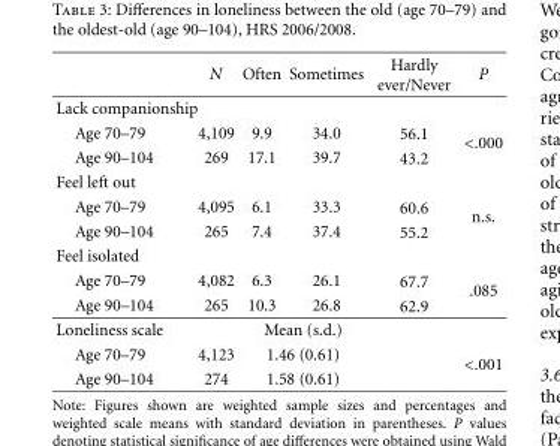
<table><thead><tr><td></td><td>N</td><td>Often</td><td>Sometimes</td><td>Hardly ever/Never</td><td>P</td></tr></thead><tbody><tr><td colspan="6">Lack companionship</td></tr><tr><td>Age 70–79</td><td>4,109</td><td>9.9</td><td>34.0</td><td>56.1</td><td rowspan="2">&lt;.000</td></tr><tr><td>Age 90–104</td><td>269</td><td>17.1</td><td>39.7</td><td>43.2</td></tr><tr><td colspan="6">Feel left out</td></tr><tr><td>Age 70–79</td><td>4,095</td><td>6.1</td><td>33.3</td><td>60.6</td><td rowspan="2">n.s.</td></tr><tr><td>Age 90–104</td><td>265</td><td>7.4</td><td>37.4</td><td>55.2</td></tr><tr><td colspan="6">Feel isolated</td></tr><tr><td>Age 70–79</td><td>4,082</td><td>6.3</td><td>26.1</td><td>67.7</td><td rowspan="2">.085</td></tr><tr><td>Age 90–104</td><td>265</td><td>10.3</td><td>26.8</td><td>62.9</td></tr><tr><td>Loneliness scale</td><td></td><td colspan="2">Mean (s.d.)</td><td></td><td></td></tr><tr><td>Age 70–79</td><td>4,123</td><td colspan="2">1.46 (0.61)</td><td></td><td rowspan="2">&lt;.001</td></tr><tr><td>Age 90–104</td><td>274</td><td colspan="2">1.58 (0.61)</td><td></td></tr></tbody></table>